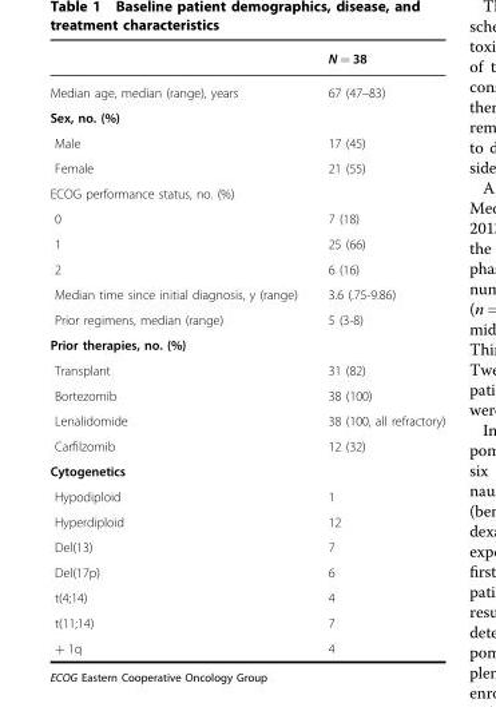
<table><thead><tr><td></td><td>N = 38</td></tr></thead><tbody><tr><td>Median age, median (range), years</td><td>67 (47–83)</td></tr><tr><td colspan="2">Sex, no. (%)</td></tr><tr><td>Male</td><td>17 (45)</td></tr><tr><td>Female</td><td>21 (55)</td></tr><tr><td colspan="2">ECOG performance status, no. (%)</td></tr><tr><td>0</td><td>7 (18)</td></tr><tr><td>1</td><td>25 (66)</td></tr><tr><td>2</td><td>6 (16)</td></tr><tr><td>Median time since initial diagnosis, y (range)</td><td>3.6 (.75-9.86)</td></tr><tr><td>Prior regimens, median (range)</td><td>5 (3-8)</td></tr><tr><td colspan="2">Prior therapies, no. (%)</td></tr><tr><td>Transplant</td><td>31 (82)</td></tr><tr><td>Bortezomib</td><td>38 (100)</td></tr><tr><td>Lenalidomide</td><td>38 (100, all refractory)</td></tr><tr><td>Carfilzomib</td><td>12 (32)</td></tr><tr><td colspan="2">Cytogenetics</td></tr><tr><td>Hypodiploid</td><td>1</td></tr><tr><td>Hyperdiploid</td><td>12</td></tr><tr><td>Del(13)</td><td>7</td></tr><tr><td>Del(17p)</td><td>6</td></tr><tr><td>t(4;14)</td><td>4</td></tr><tr><td>t(11;14)</td><td>7</td></tr><tr><td>+ 1q</td><td>4</td></tr></tbody></table>